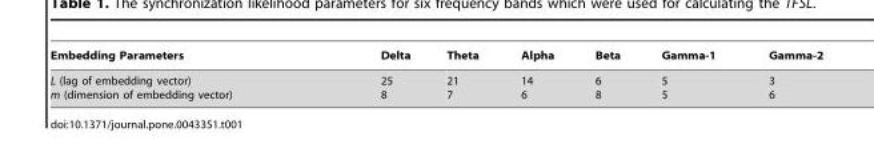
<table><thead><tr><td>Embedding Parameters</td><td>Delta</td><td>Theta</td><td>Alpha</td><td>Beta</td><td>Gamma-1</td><td>Gamma-2</td></tr></thead><tbody><tr><td>L (lag of embedding vector) m (dimension of embedding vector)</td><td>25 8</td><td>21 7</td><td>14 6</td><td>6 8</td><td>5 5</td><td>3 6</td></tr></tbody></table>